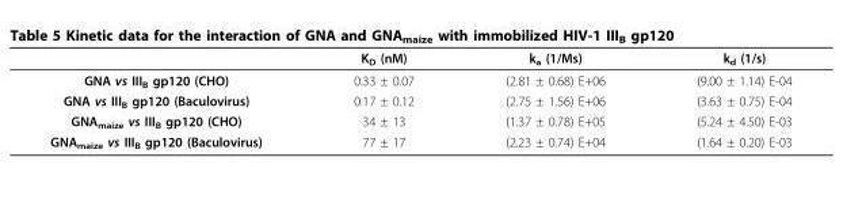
<table><thead><tr><td></td><td>K<sub>D</sub> (nM)</td><td>k<sub>a</sub> (1/Ms)</td><td>k<sub>d</sub> (1/s)</td></tr></thead><tbody><tr><td>GNA vs III<sub>B</sub> gp120 (CHO)</td><td>0.33 ± 0.07</td><td>(2.81 ± 0.68) E+06</td><td>(9.00 ± 1.14) E-04</td></tr><tr><td>GNA vs III<sub>B</sub> gp120 (Baculovirus)</td><td>0.17 ± 0.12</td><td>(2.75 ± 1.56) E+06</td><td>(3.63 ± 0.75) E-04</td></tr><tr><td>GNA<sub>maize</sub> vs III<sub>B</sub> gp120 (CHO)</td><td>34 ± 13</td><td>(1.37 ± 0.78) E+05</td><td>(5.24 ± 4.50) E-03</td></tr><tr><td>GNA<sub>maize</sub> vs III<sub>B</sub> gp120 (Baculovirus)</td><td>77 ± 17</td><td>(2.23 ± 0.74) E+04</td><td>(1.64 ± 0.20) E-03</td></tr></tbody></table>